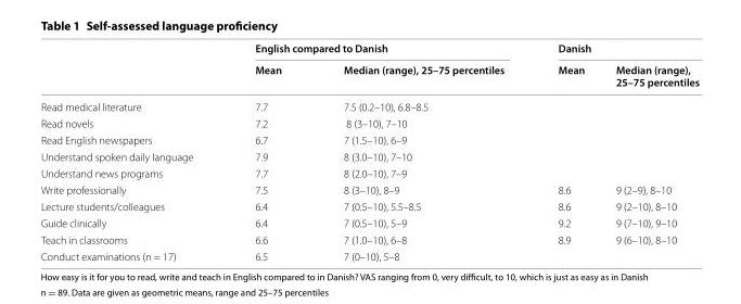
<table><thead><tr><td rowspan="2"></td><td colspan="2">English compared to Danish</td><td colspan="2">Danish</td></tr><tr><td>Mean</td><td>Median (range), 25–75 percentiles</td><td>Mean</td><td>Median (range), 25–75 percentiles</td></tr></thead><tbody><tr><td>Read medical literature</td><td>7.7</td><td>7.5 (0.2–10), 6.8–8.5</td><td></td><td></td></tr><tr><td>Read novels</td><td>7.2</td><td>8 (3–10), 7–10</td><td></td><td></td></tr><tr><td>Read English newspapers</td><td>6.7</td><td>7 (1.5–10), 6–9</td><td></td><td></td></tr><tr><td>Understand spoken daily language</td><td>7.9</td><td>8 (3.0–10), 7–10</td><td></td><td></td></tr><tr><td>Understand news programs</td><td>7.7</td><td>8 (2.0–10), 7–9</td><td></td><td></td></tr><tr><td>Write professionally</td><td>7.5</td><td>8 (3–10), 8–9</td><td>8.6</td><td>9 (2–9), 8–10</td></tr><tr><td>Lecture students/colleagues</td><td>6.4</td><td>7 (0.5–10), 5.5–8.5</td><td>8.6</td><td>9 (2–10), 8–10</td></tr><tr><td>Guide clinically</td><td>6.4</td><td>7 (0.5–10), 5–9</td><td>9.2</td><td>9 (7–10), 9–10</td></tr><tr><td>Teach in classrooms</td><td>6.6</td><td>7 (1.0–10), 6–8</td><td>8.9</td><td>9 (6–10), 8–10</td></tr><tr><td>Conduct examinations (n = 17)</td><td>6.5</td><td>7 (0–10), 5–8</td><td></td><td></td></tr></tbody></table>